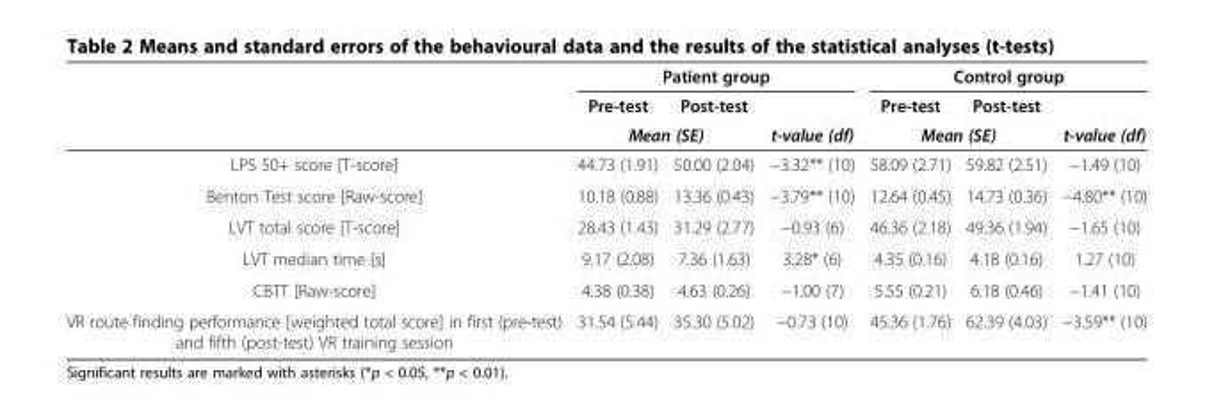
<table><thead><tr><td rowspan="3"></td><td colspan="3">Patient group</td><td colspan="3">Control group</td></tr><tr><td>Pre-test</td><td>Post-test</td><td rowspan="2">t-value (df)</td><td>Pre-test</td><td>Post-test</td><td rowspan="2">t-value (df)</td></tr><tr><td colspan="2">Mean (SE)</td><td colspan="2">Mean (SE)</td></tr></thead><tbody><tr><td>LPS 50+ score [T-score]</td><td>44.73 (1.91)</td><td>50.00 (2.04)</td><td>−3.32** (10)</td><td>58.09 (2.71)</td><td>59.82 (2.51)</td><td>−1.49 (10)</td></tr><tr><td>Benton Test score [Raw-score]</td><td>10.18 (0.88)</td><td>13.36 (0.43)</td><td>−3.79** (10)</td><td>12.64 (0.45)</td><td>14.73 (0.36)</td><td>−4.80** (10)</td></tr><tr><td>LVT total score [T-score]</td><td>28.43 (1.43)</td><td>31.29 (2.77)</td><td>−0.93 (6)</td><td>46.36 (2.18)</td><td>49.36 (1.94)</td><td>−1.65 (10)</td></tr><tr><td>LVT median time [s]</td><td>9.17 (2.08)</td><td>7.36 (1.63)</td><td>3.28* (6)</td><td>4.35 (0.16)</td><td>4.18 (0.16)</td><td>1.27 (10)</td></tr><tr><td>CBTT [Raw-score]</td><td>4.38 (0.38)</td><td>4.63 (0.26)</td><td>−1.00 (7)</td><td>5.55 (0.21)</td><td>6.18 (0.46)</td><td>−1.41 (10)</td></tr><tr><td>VR route finding performance [weighted total score] in first (pre-test) and fifth (post-test) VR training session</td><td>31.54 (5.44)</td><td>35.30 (5.02)</td><td>−0.73 (10)</td><td>45.36 (1.76)</td><td>62.39 (4.03)</td><td>−3.59** (10)</td></tr></tbody></table>